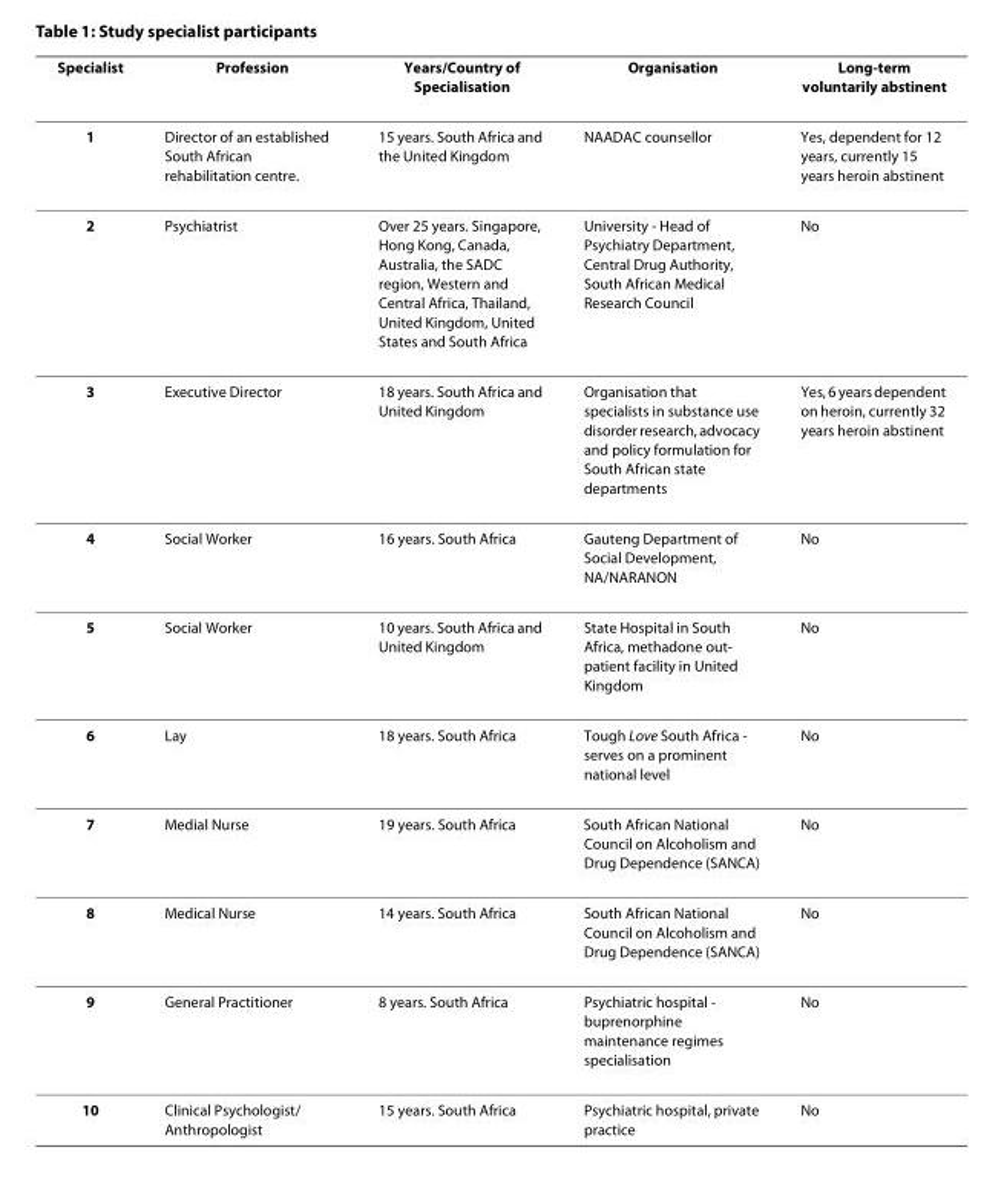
<table><thead><tr><td>Specialist</td><td>Profession</td><td>Years/Country of Specialisation</td><td>Organisation</td><td>Long-term voluntarily abstinent</td></tr></thead><tbody><tr><td>1</td><td>Director of an established South African rehabilitation centre.</td><td>15 years. South Africa and the United Kingdom</td><td>NAADAC counsellor</td><td>Yes, dependent for 12 years, currently 15 years heroin abstinent</td></tr><tr><td>2</td><td>Psychiatrist</td><td>Over 25 years. Singapore, Hong Kong, Canada, Australia, the SADC region, Western and Central Africa, Thailand, United Kingdom, United States and South Africa</td><td>University - Head of Psychiatry Department, Central Drug Authority, South African Medical Research Council</td><td>No</td></tr><tr><td>3</td><td>Executive Director</td><td>18 years. South Africa and United Kingdom</td><td>Organisation that specialists in substance use disorder research, advocacy and policy formulation for South African state departments</td><td>Yes, 6 years dependent on heroin, currently 32 years heroin abstinent</td></tr><tr><td>4</td><td>Social Worker</td><td>16 years. South Africa</td><td>Gauteng Department of Social Development, NA/NARANON</td><td>No</td></tr><tr><td>5</td><td>Social Worker</td><td>10 years. South Africa and United Kingdom</td><td>State Hospital in South Africa, methadone out- patient facility in United Kingdom</td><td>No</td></tr><tr><td>6</td><td>Lay</td><td>18 years. South Africa</td><td>Tough Love South Africa - serves on a prominent national level</td><td>No</td></tr><tr><td>7</td><td>Medial Nurse</td><td>19 years. South Africa</td><td>South African National Council on Alcoholism and Drug Dependence (SANCA)</td><td>No</td></tr><tr><td>8</td><td>Medical Nurse</td><td>14 years. South Africa</td><td>South African National Council on Alcoholism and Drug Dependence (SANCA)</td><td>No</td></tr><tr><td>9</td><td>General Practitioner</td><td>8 years. South Africa</td><td>Psychiatric hospital - buprenorphine maintenance regimes specialisation</td><td>No</td></tr><tr><td>10</td><td>Clinical Psychologist/ Anthropologist</td><td>15 years. South Africa</td><td>Psychiatric hospital, private practice</td><td>No</td></tr></tbody></table>